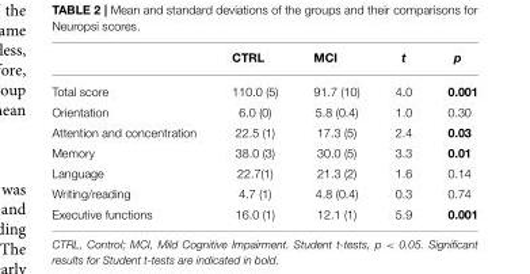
<table><thead><tr><td></td><td>CTRL</td><td>MCI</td><td>t</td><td>p</td></tr></thead><tbody><tr><td>Total score</td><td>110.0 (5)</td><td>91.7 (10)</td><td>4.0</td><td>0.001</td></tr><tr><td>Orientation</td><td>6.0 (0)</td><td>5.8 (0.4)</td><td>1.0</td><td>0.30</td></tr><tr><td>Attention and concentration</td><td>22.5 (1)</td><td>17.3 (5)</td><td>2.4</td><td>0.03</td></tr><tr><td>Memory</td><td>38.0 (3)</td><td>30.0 (5)</td><td>3.3</td><td>0.01</td></tr><tr><td>Language</td><td>22.7(1)</td><td>21.3 (2)</td><td>1.6</td><td>0.14</td></tr><tr><td>Writing/reading</td><td>4.7 (1)</td><td>4.8 (0.4)</td><td>0.3</td><td>0.74</td></tr><tr><td>Executive functions</td><td>16.0 (1)</td><td>12.1 (1)</td><td>5.9</td><td>0.001</td></tr></tbody></table>